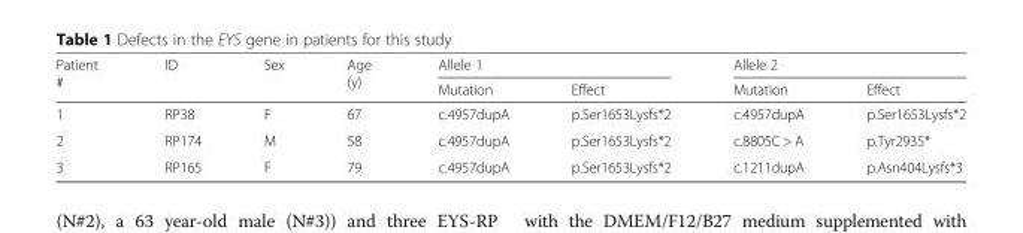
<table><thead><tr><td rowspan="2">Patient #</td><td rowspan="2">ID</td><td rowspan="2">Sex</td><td rowspan="2">Age (y)</td><td colspan="2">Allele 1</td><td colspan="2">Allele 2</td></tr><tr><td>Mutation</td><td>Effect</td><td>Mutation</td><td>Effect</td></tr></thead><tbody><tr><td>1</td><td>RP38</td><td>F</td><td>67</td><td>c.4957dupA</td><td>p.Ser1653Lysfs*2</td><td>c.4957dupA</td><td>p.Ser1653Lysfs*2</td></tr><tr><td>2</td><td>RP174</td><td>M</td><td>58</td><td>c.4957dupA</td><td>p.Ser1653Lysfs*2</td><td>c.8805C &gt; A</td><td>p.Tyr2935*</td></tr><tr><td>3</td><td>RP165</td><td>F</td><td>79</td><td>c.4957dupA</td><td>p.Ser1653Lysfs*2</td><td>c.1211dupA</td><td>p.Asn404Lysfs*3</td></tr></tbody></table>